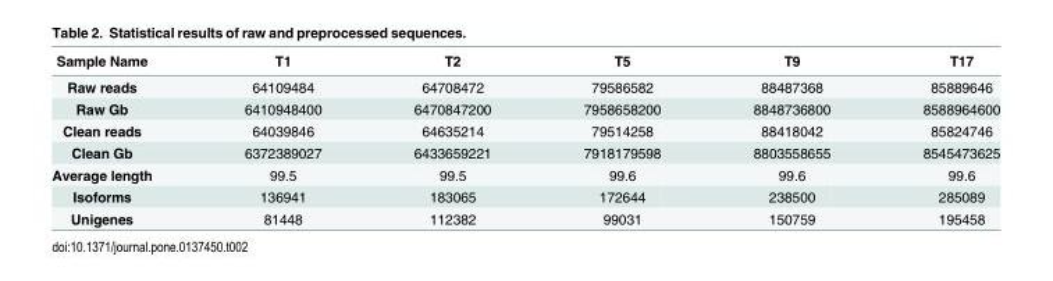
<table><thead><tr><td>Sample Name</td><td>T1</td><td>T2</td><td>T5</td><td>T9</td><td>T17</td></tr></thead><tbody><tr><td>Raw reads</td><td>64109484</td><td>64708472</td><td>79586582</td><td>88487368</td><td>85889646</td></tr><tr><td>Raw Gb</td><td>6410948400</td><td>6470847200</td><td>7958658200</td><td>8848736800</td><td>8588964600</td></tr><tr><td>Clean reads</td><td>64039846</td><td>64635214</td><td>79514258</td><td>88418042</td><td>85824746</td></tr><tr><td>Clean Gb</td><td>6372389027</td><td>6433659221</td><td>7918179598</td><td>8803558655</td><td>8545473625</td></tr><tr><td>Average length</td><td>99.5</td><td>99.5</td><td>99.6</td><td>99.6</td><td>99.6</td></tr><tr><td>Isoforms</td><td>136941</td><td>183065</td><td>172644</td><td>238500</td><td>285089</td></tr><tr><td>Unigenes</td><td>81448</td><td>112382</td><td>99031</td><td>150759</td><td>195458</td></tr></tbody></table>